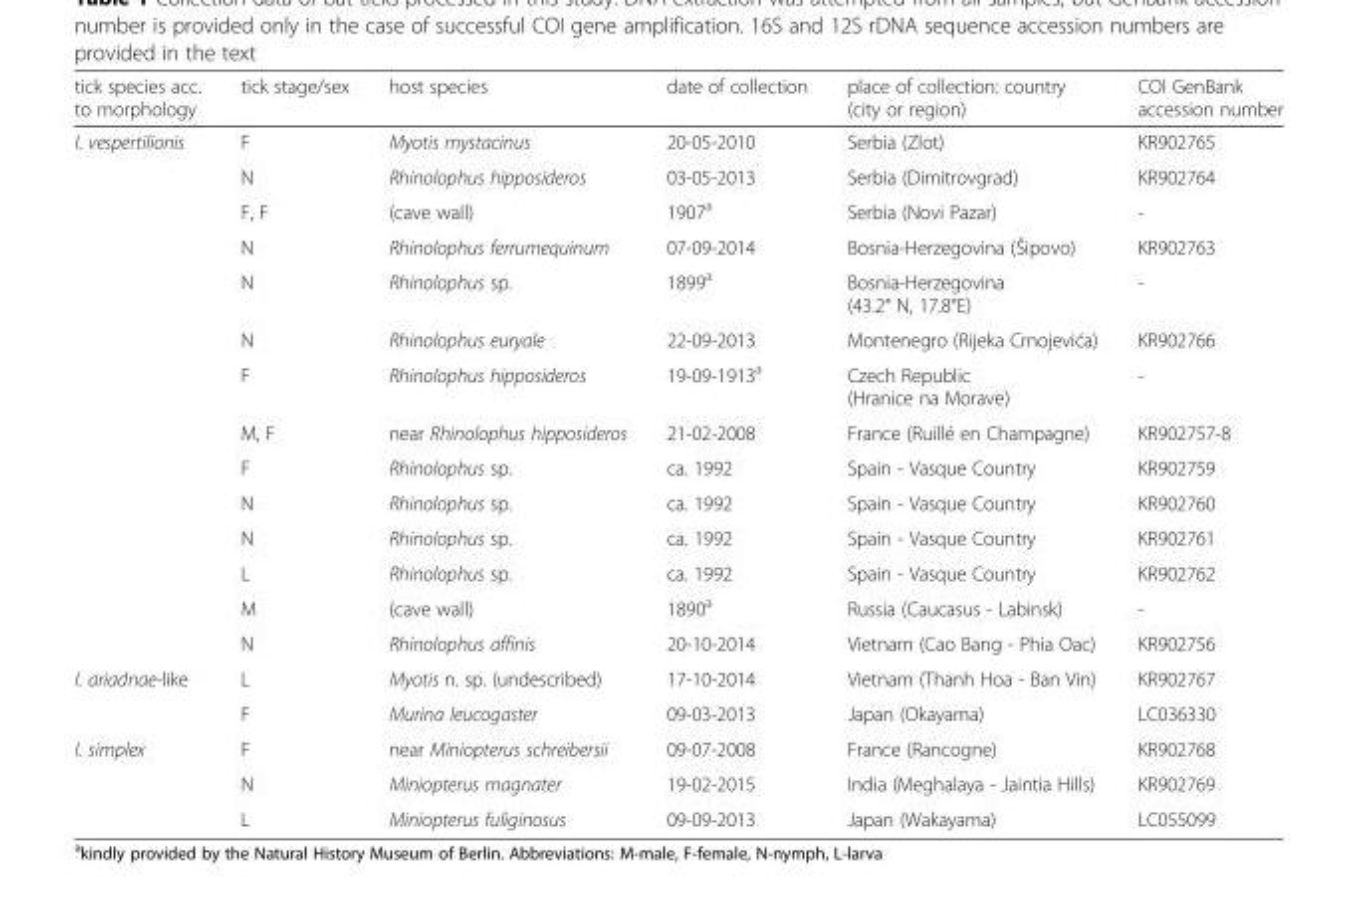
<table><thead><tr><td>tick species acc. to morphology</td><td>tick stage/sex</td><td>host species</td><td>date of collection</td><td>place of collection: country (city or region)</td><td>COI GenBank accession number</td></tr></thead><tbody><tr><td rowspan="14">I. vespertilionis</td><td>F</td><td>Myotis mystacinus</td><td>20-05-2010</td><td>Serbia (Zlot)</td><td>KR902765</td></tr><tr><td>N</td><td>Rhinolophus hipposideros</td><td>03-05-2013</td><td>Serbia (Dimitrovgrad)</td><td>KR902764</td></tr><tr><td>F, F</td><td>(cave wall)</td><td>1907<sup>a</sup></td><td>Serbia (Novi Pazar)</td><td>-</td></tr><tr><td>N</td><td>Rhinolophus ferrumequinum</td><td>07-09-2014</td><td>Bosnia-Herzegovina (Šipovo)</td><td>KR902763</td></tr><tr><td>N</td><td>Rhinolophus sp.</td><td>1899<sup>a</sup></td><td>Bosnia-Herzegovina (43.2° N, 17.8°E)</td><td>-</td></tr><tr><td>N</td><td>Rhinolophus euryale</td><td>22-09-2013</td><td>Montenegro (Rijeka Crnojevića)</td><td>KR902766</td></tr><tr><td>F</td><td>Rhinolophus hipposideros</td><td>19-09-1913<sup>a</sup></td><td>Czech Republic (Hranice na Morave)</td><td>-</td></tr><tr><td>M, F</td><td>near Rhinolophus hipposideros</td><td>21-02-2008</td><td>France (Ruillé en Champagne)</td><td>KR902757-8</td></tr><tr><td>F</td><td>Rhinolophus sp.</td><td>ca. 1992</td><td>Spain - Vasque Country</td><td>KR902759</td></tr><tr><td>N</td><td>Rhinolophus sp.</td><td>ca. 1992</td><td>Spain - Vasque Country</td><td>KR902760</td></tr><tr><td>N</td><td>Rhinolophus sp.</td><td>ca. 1992</td><td>Spain - Vasque Country</td><td>KR902761</td></tr><tr><td>L</td><td>Rhinolophus sp.</td><td>ca. 1992</td><td>Spain - Vasque Country</td><td>KR902762</td></tr><tr><td>M</td><td>(cave wall)</td><td>1890<sup>a</sup></td><td>Russia (Caucasus - Labinsk)</td><td>-</td></tr><tr><td>N</td><td>Rhinolophus affinis</td><td>20-10-2014</td><td>Vietnam (Cao Bang - Phia Oac)</td><td>KR902756</td></tr><tr><td rowspan="2">I. ariadnae-like</td><td>L</td><td>Myotis n. sp. (undescribed)</td><td>17-10-2014</td><td>Vietnam (Thanh Hoa - Ban Vin)</td><td>KR902767</td></tr><tr><td>F</td><td>Murina leucogaster</td><td>09-03-2013</td><td>Japan (Okayama)</td><td>LC036330</td></tr><tr><td rowspan="3">I. simplex</td><td>F</td><td>near Miniopterus schreibersii</td><td>09-07-2008</td><td>France (Rancogne)</td><td>KR902768</td></tr><tr><td>N</td><td>Miniopterus magnater</td><td>19-02-2015</td><td>India (Meghalaya - Jaintia Hills)</td><td>KR902769</td></tr><tr><td>L</td><td>Miniopterus fuliginosus</td><td>09-09-2013</td><td>Japan (Wakayama)</td><td>LC055099</td></tr></tbody></table>